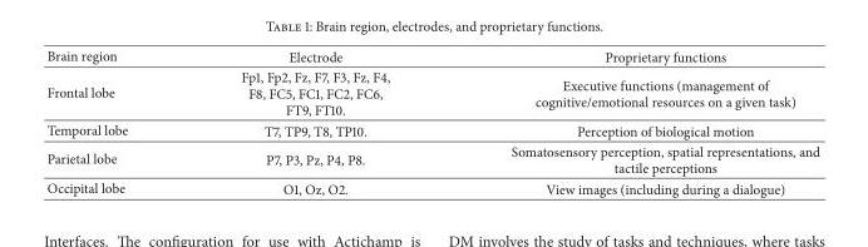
<table><thead><tr><td>Brain region</td><td>Electrode</td><td>Proprietary functions</td></tr></thead><tbody><tr><td>Frontal lobe</td><td>Fp1, Fp2, Fz, F7, F3, Fz, F4, F8, FC5, FC1, FC2, FC6, FT9, FT10.</td><td>Executive functions (management of cognitive/emotional resources on a given task)</td></tr><tr><td>Temporal lobe</td><td>T7, TP9, T8, TP10.</td><td>Perception of biological motion</td></tr><tr><td>Parietal lobe</td><td>P7, P3, Pz, P4, P8.</td><td>Somatosensory perception, spatial representations, and tactile perceptions</td></tr><tr><td>Occipital lobe</td><td>O1, Oz, O2.</td><td>View images (including during a dialogue)</td></tr></tbody></table>